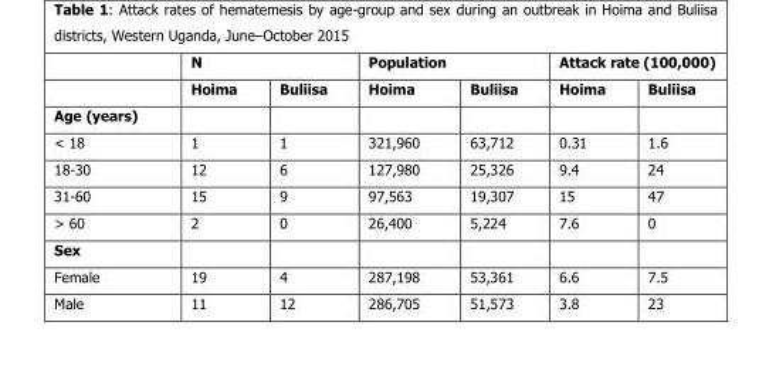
<table><thead><tr><td rowspan="2"></td><td colspan="2">N</td><td colspan="2">Population</td><td colspan="2">Attack rate (100,000)</td></tr><tr><td>Hoima</td><td>Buliisa</td><td>Hoima</td><td>Buliisa</td><td>Hoima</td><td>Buliisa</td></tr></thead><tbody><tr><td colspan="7">Age (years)</td></tr><tr><td>&lt; 18</td><td>1</td><td>1</td><td>321,960</td><td>63,712</td><td>0.31</td><td>1.6</td></tr><tr><td>18-30</td><td>12</td><td>6</td><td>127,980</td><td>25,326</td><td>9.4</td><td>24</td></tr><tr><td>31-60</td><td>15</td><td>9</td><td>97,563</td><td>19,307</td><td>15</td><td>47</td></tr><tr><td>&gt; 60</td><td>2</td><td>0</td><td>26,400</td><td>5,224</td><td>7.6</td><td>0</td></tr><tr><td colspan="7">Sex</td></tr><tr><td>Female</td><td>19</td><td>4</td><td>287,198</td><td>53,361</td><td>6.6</td><td>7.5</td></tr><tr><td>Male</td><td>11</td><td>12</td><td>286,705</td><td>51,573</td><td>3.8</td><td>23</td></tr></tbody></table>